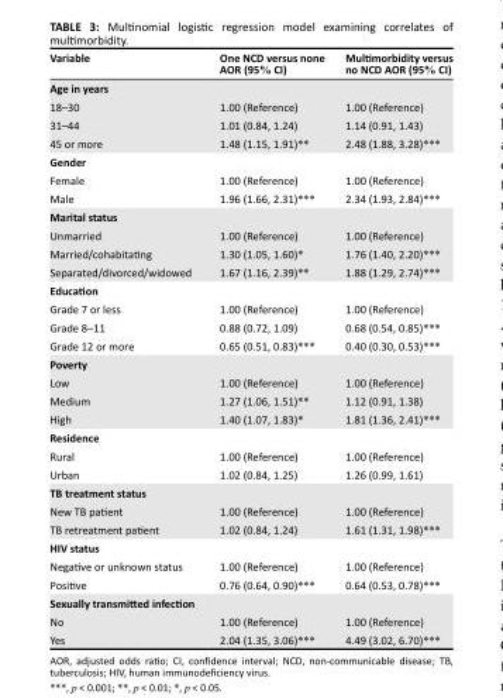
<table><thead><tr><td>Variable</td><td>One NCD versus none AOR (95% CI)</td><td>Multimorbidity versus no NCD AOR (95% CI)</td></tr></thead><tbody><tr><td>Age in years 18–30 31–44 45 or more</td><td>1.00 (Reference) 1.01 (0.84, 1.24) 1.48 (1.15, 1.91)**</td><td>1.00 (Reference) 1.14 (0.91, 1.43) 2.48 (1.88, 3.28)***</td></tr><tr><td>Gender Female Male</td><td>1.00 (Reference) 1.96 (1.66, 2.31)***</td><td>1.00 (Reference) 2.34 (1.93, 2.84)***</td></tr><tr><td>Marital status Unmarried Married/cohabitating Separated/divorced/widowed</td><td>1.00 (Reference) 1.30 (1.05, 1.60)* 1.67 (1.16, 2.39)**</td><td>1.00 (Reference) 1.76 (1.40, 2.20)*** 1.88 (1.29, 2.74)***</td></tr><tr><td>Education Grade 7 or less Grade 8–11 Grade 12 or more</td><td>1.00 (Reference) 0.88 (0.72, 1.09) 0.65 (0.51, 0.83)***</td><td>1.00 (Reference) 0.68 (0.54, 0.85)*** 0.40 (0.30, 0.53)***</td></tr><tr><td>Poverty Low Medium High</td><td>1.00 (Reference) 1.27 (1.06, 1.51)** 1.40 (1.07, 1.83)*</td><td>1.00 (Reference) 1.12 (0.91, 1.38) 1.81 (1.36, 2.41)***</td></tr><tr><td>Residence Rural Urban</td><td>1.00 (Reference) 1.02 (0.84, 1.25)</td><td>1.00 (Reference) 1.26 (0.99, 1.61)</td></tr><tr><td>TB treatment status New TB patient TB retreatment patient</td><td>1.00 (Reference) 1.02 (0.84, 1.24)</td><td>1.00 (Reference) 1.61 (1.31, 1.98)***</td></tr><tr><td>HIV status Negative or unknown status Positive</td><td>1.00 (Reference) 0.76 (0.64, 0.90)***</td><td>1.00 (Reference) 0.64 (0.53, 0.78)***</td></tr><tr><td>Sexually transmitted infection No Yes</td><td>1.00 (Reference) 2.04 (1.35, 3.06)***</td><td>1.00 (Reference) 4.49 (3.02, 6.70)***</td></tr></tbody></table>